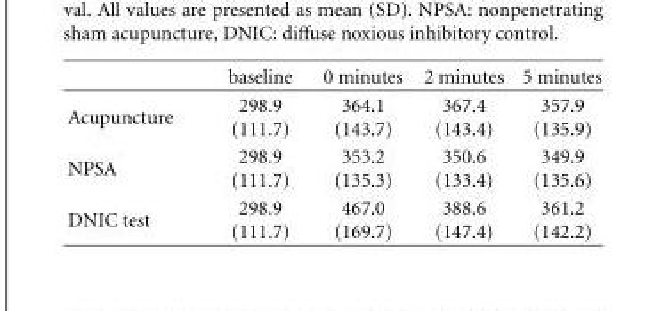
<table><thead><tr><td></td><td>baseline</td><td>0 minutes</td><td>2 minutes</td><td>5 minutes</td></tr></thead><tbody><tr><td>Acupuncture</td><td>298.9 (111.7)</td><td>364.1 (143.7)</td><td>367.4 (143.4)</td><td>357.9 (135.9)</td></tr><tr><td>NPSA</td><td>298.9 (111.7)</td><td>353.2 (135.3)</td><td>350.6 (133.4)</td><td>349.9 (135.6)</td></tr><tr><td>DNIC test</td><td>298.9 (111.7)</td><td>467.0 (169.7)</td><td>388.6 (147.4)</td><td>361.2 (142.2)</td></tr></tbody></table>